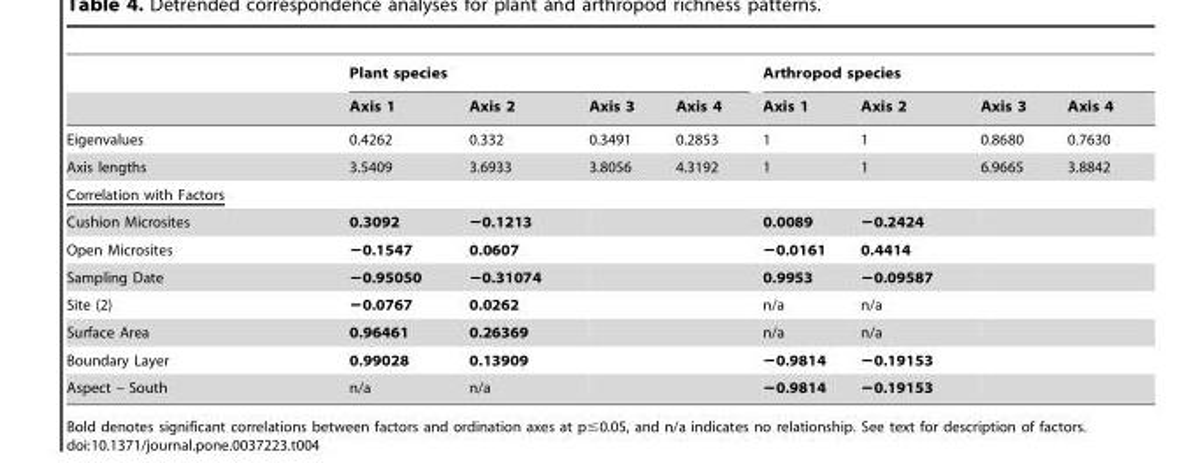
<table><thead><tr><td rowspan="2"></td><td colspan="4">Plant species</td><td colspan="4">Arthropod species</td></tr><tr><td>Axis 1</td><td>Axis 2</td><td>Axis 3</td><td>Axis 4</td><td>Axis 1</td><td>Axis 2</td><td>Axis 3</td><td>Axis 4</td></tr></thead><tbody><tr><td>Eigenvalues</td><td>0.4262</td><td>0.332</td><td>0.3491</td><td>0.2853</td><td>1</td><td>1</td><td>0.8680</td><td>0.7630</td></tr><tr><td>Axis lengths</td><td>3.5409</td><td>3.6933</td><td>3.8056</td><td>4.3192</td><td>1</td><td>1</td><td>6.9665</td><td>3.8842</td></tr><tr><td colspan="9">Correlation with Factors</td></tr><tr><td>Cushion Microsites</td><td>0.3092</td><td>−0.1213</td><td></td><td></td><td>0.0089</td><td>−0.2424</td><td></td><td></td></tr><tr><td>Open Microsites</td><td>−0.1547</td><td>0.0607</td><td></td><td></td><td>−0.0161</td><td>0.4414</td><td></td><td></td></tr><tr><td>Sampling Date</td><td>−0.95050</td><td>−0.31074</td><td></td><td></td><td>0.9953</td><td>−0.09587</td><td></td><td></td></tr><tr><td>Site (2)</td><td>−0.0767</td><td>0.0262</td><td></td><td></td><td>n/a</td><td>n/a</td><td></td><td></td></tr><tr><td>Surface Area</td><td>0.96461</td><td>0.26369</td><td></td><td></td><td>n/a</td><td>n/a</td><td></td><td></td></tr><tr><td>Boundary Layer</td><td>0.99028</td><td>0.13909</td><td></td><td></td><td>−0.9814</td><td>−0.19153</td><td></td><td></td></tr><tr><td>Aspect – South</td><td>n/a</td><td>n/a</td><td></td><td></td><td>−0.9814</td><td>−0.19153</td><td></td><td></td></tr></tbody></table>